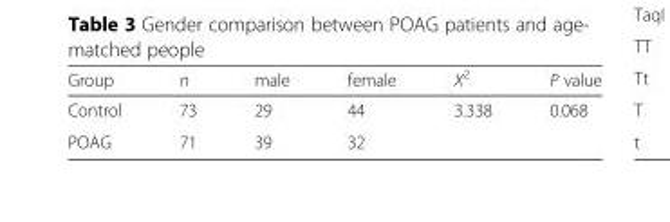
<table><thead><tr><td>Group</td><td>n</td><td>male</td><td>female</td><td>X<sup>2</sup></td><td>P value</td></tr></thead><tbody><tr><td>Control</td><td>73</td><td>29</td><td>44</td><td rowspan="2">3.338</td><td rowspan="2">0.068</td></tr><tr><td>POAG</td><td>71</td><td>39</td><td>32</td></tr></tbody></table>